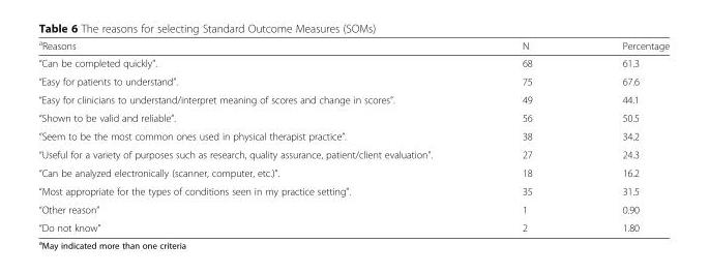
<table><thead><tr><td><sup>a</sup>Reasons</td><td>N</td><td>Percentage</td></tr></thead><tbody><tr><td>“Can be completed quickly”.</td><td>68</td><td>61.3</td></tr><tr><td>“Easy for patients to understand”.</td><td>75</td><td>67.6</td></tr><tr><td>“Easy for clinicians to understand/interpret meaning of scores and change in scores”.</td><td>49</td><td>44.1</td></tr><tr><td>“Shown to be valid and reliable”.</td><td>56</td><td>50.5</td></tr><tr><td>“Seem to be the most common ones used in physical therapist practice”.</td><td>38</td><td>34.2</td></tr><tr><td>“Useful for a variety of purposes such as research, quality assurance, patient/client evaluation”.</td><td>27</td><td>24.3</td></tr><tr><td>“Can be analyzed electronically (scanner, computer, etc.)”.</td><td>18</td><td>16.2</td></tr><tr><td>“Most appropriate for the types of conditions seen in my practice setting”.</td><td>35</td><td>31.5</td></tr><tr><td>“Other reason”</td><td>1</td><td>0.90</td></tr><tr><td>“Do not know”</td><td>2</td><td>1.80</td></tr></tbody></table>